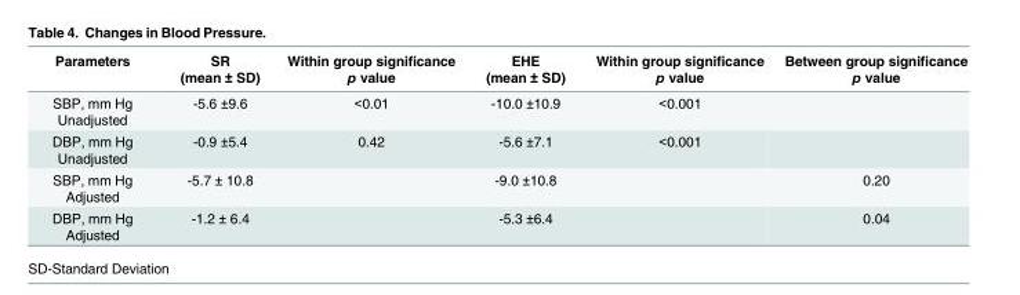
<table><thead><tr><td>Parameters</td><td>SR (mean ± SD)</td><td>Within group significance p value</td><td>EHE (mean ± SD)</td><td>Within group significance p value</td><td>Between group significance p value</td></tr></thead><tbody><tr><td>SBP, mm Hg Unadjusted</td><td>-5.6 ±9.6</td><td>&lt;0.01</td><td>-10.0 ±10.9</td><td>&lt;0.001</td><td></td></tr><tr><td>DBP, mm Hg Unadjusted</td><td>-0.9 ±5.4</td><td>0.42</td><td>-5.6 ±7.1</td><td>&lt;0.001</td><td></td></tr><tr><td>SBP, mm Hg Adjusted</td><td>-5.7 ± 10.8</td><td></td><td>-9.0 ±10.8</td><td></td><td>0.20</td></tr><tr><td>DBP, mm Hg Adjusted</td><td>-1.2 ± 6.4</td><td></td><td>-5.3 ±6.4</td><td></td><td>0.04</td></tr></tbody></table>